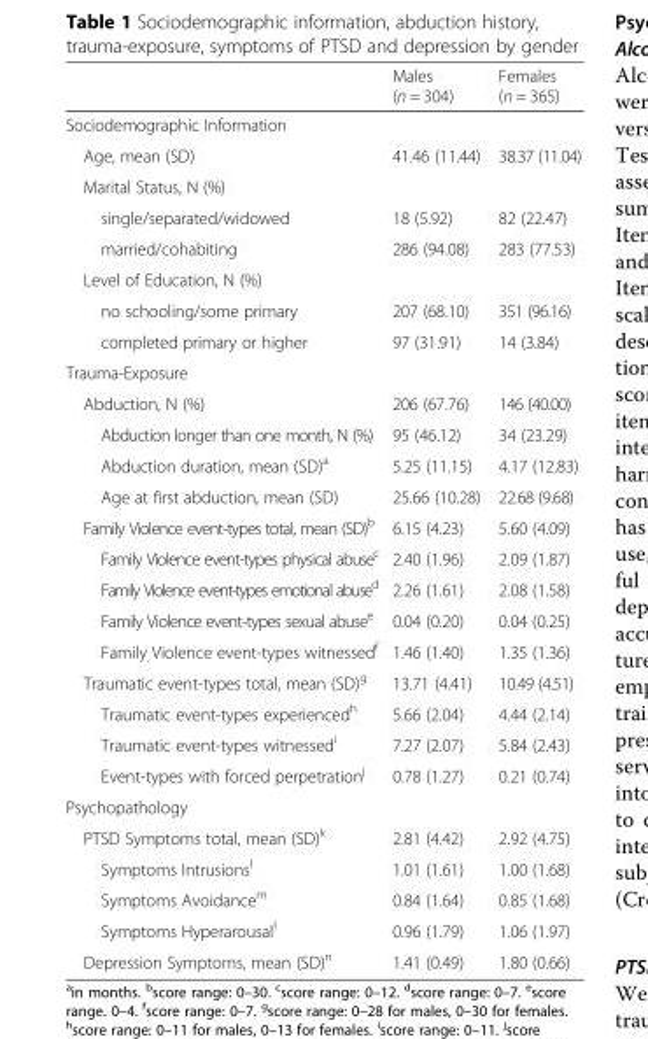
<table><thead><tr><td></td><td>Males (n = 304)</td><td>Females (n = 365)</td></tr></thead><tbody><tr><td colspan="3">Sociodemographic Information</td></tr><tr><td>Age, mean (SD)</td><td>41.46 (11.44)</td><td>38.37 (11.04)</td></tr><tr><td colspan="3">Marital Status, N (%)</td></tr><tr><td>single/separated/widowed</td><td>18 (5.92)</td><td>82 (22.47)</td></tr><tr><td>married/cohabiting</td><td>286 (94.08)</td><td>283 (77.53)</td></tr><tr><td colspan="3">Level of Education, N (%)</td></tr><tr><td>no schooling/some primary</td><td>207 (68.10)</td><td>351 (96.16)</td></tr><tr><td>completed primary or higher</td><td>97 (31.91)</td><td>14 (3.84)</td></tr><tr><td colspan="3">Trauma-Exposure</td></tr><tr><td>Abduction, N (%)</td><td>206 (67.76)</td><td>146 (40.00)</td></tr><tr><td>Abduction longer than one month, N (%)</td><td>95 (46.12)</td><td>34 (23.29)</td></tr><tr><td>Abduction duration, mean (SD)<sup>a</sup></td><td>5.25 (11.15)</td><td>4.17 (12.83)</td></tr><tr><td>Age at first abduction, mean (SD)</td><td>25.66 (10.28)</td><td>22.68 (9.68)</td></tr><tr><td>Family Violence event-types total, mean (SD)<sup>b</sup></td><td>6.15 (4.23)</td><td>5.60 (4.09)</td></tr><tr><td>Family Violence event-types physical abuse<sup>c</sup></td><td>2.40 (1.96)</td><td>2.09 (1.87)</td></tr><tr><td>Family Violence event-types emotional abuse<sup>d</sup></td><td>2.26 (1.61)</td><td>2.08 (1.58)</td></tr><tr><td>Family Violence event-types sexual abuse<sup>e</sup></td><td>0.04 (0.20)</td><td>0.04 (0.25)</td></tr><tr><td>Family Violence event-types witnessed<sup>f</sup></td><td>1.46 (1.40)</td><td>1.35 (1.36)</td></tr><tr><td>Traumatic event-types total, mean (SD)<sup>g</sup></td><td>13.71 (4.41)</td><td>10.49 (4.51)</td></tr><tr><td>Traumatic event-types experienced<sup>h</sup></td><td>5.66 (2.04)</td><td>4.44 (2.14)</td></tr><tr><td>Traumatic event-types witnessed<sup>i</sup></td><td>7.27 (2.07)</td><td>5.84 (2.43)</td></tr><tr><td>Event-types with forced perpetration<sup>j</sup></td><td>0.78 (1.27)</td><td>0.21 (0.74)</td></tr><tr><td colspan="3">Psychopathology</td></tr><tr><td>PTSD Symptoms total, mean (SD)<sup>k</sup></td><td>2.81 (4.42)</td><td>2.92 (4.75)</td></tr><tr><td>Symptoms Intrusions<sup>l</sup></td><td>1.01 (1.61)</td><td>1.00 (1.68)</td></tr><tr><td>Symptoms Avoidance<sup>m</sup></td><td>0.84 (1.64)</td><td>0.85 (1.68)</td></tr><tr><td>Symptoms Hyperarousal<sup>l</sup></td><td>0.96 (1.79)</td><td>1.06 (1.97)</td></tr><tr><td>Depression Symptoms, mean (SD)<sup>n</sup></td><td>1.41 (0.49)</td><td>1.80 (0.66)</td></tr></tbody></table>